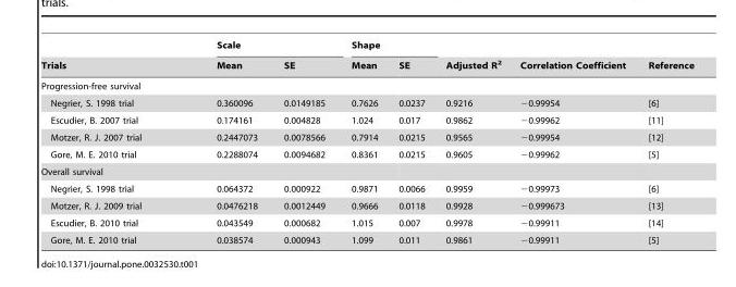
<table><thead><tr><td rowspan="2">Trials</td><td colspan="2">Scale</td><td colspan="2">Shape</td><td rowspan="2">Adjusted R<sup>2</sup></td><td rowspan="2">Correlation Coefficient</td><td rowspan="2">Reference</td></tr><tr><td>Mean</td><td>SE</td><td>Mean</td><td>SE</td></tr></thead><tbody><tr><td colspan="8">Progression-free survival</td></tr><tr><td>Negrier, S. 1998 trial</td><td>0.360096</td><td>0.0149185</td><td>0.7626</td><td>0.0237</td><td>0.9216</td><td>−0.99954</td><td>[6]</td></tr><tr><td>Escudier, B. 2007 trial</td><td>0.174161</td><td>0.004828</td><td>1.024</td><td>0.017</td><td>0.9862</td><td>−0.99962</td><td>[11]</td></tr><tr><td>Motzer, R. J. 2007 trial</td><td>0.2447073</td><td>0.0078566</td><td>0.7914</td><td>0.0215</td><td>0.9565</td><td>−0.99954</td><td>[12]</td></tr><tr><td>Gore, M. E. 2010 trial</td><td>0.2288074</td><td>0.0094682</td><td>0.8361</td><td>0.0215</td><td>0.9605</td><td>−0.99962</td><td>[5]</td></tr><tr><td colspan="8">Overall survival</td></tr><tr><td>Negrier, S. 1998 trial</td><td>0.064372</td><td>0.000922</td><td>0.9871</td><td>0.0066</td><td>0.9959</td><td>−0.99973</td><td>[6]</td></tr><tr><td>Motzer, R. J. 2009 trial</td><td>0.0476218</td><td>0.0012449</td><td>0.9666</td><td>0.0118</td><td>0.9928</td><td>−0.999673</td><td>[13]</td></tr><tr><td>Escudier, B. 2010 trial</td><td>0.043549</td><td>0.000682</td><td>1.015</td><td>0.007</td><td>0.9978</td><td>−0.99911</td><td>[14]</td></tr><tr><td>Gore, M. E. 2010 trial</td><td>0.038574</td><td>0.000943</td><td>1.099</td><td>0.011</td><td>0.9861</td><td>−0.99911</td><td>[5]</td></tr></tbody></table>